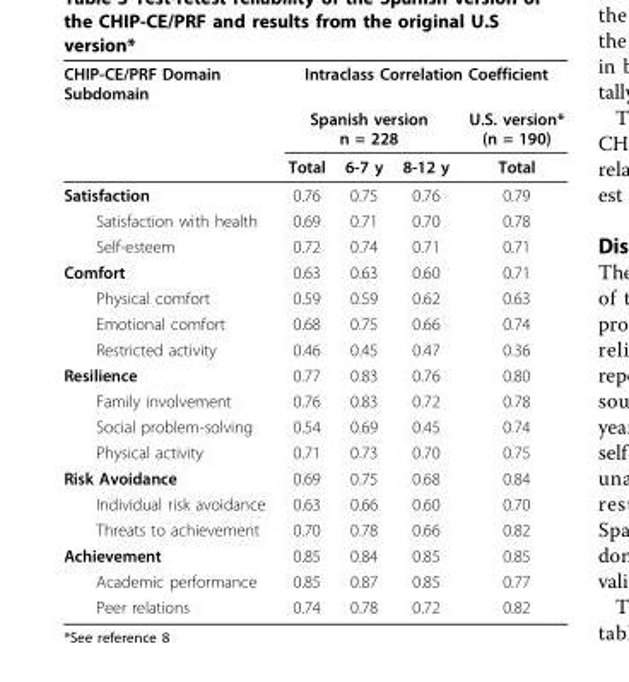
<table><thead><tr><td rowspan="3">CHIP-CE/PRF Domain Subdomain</td><td colspan="4">Intraclass Correlation Coefficient</td></tr><tr><td colspan="3">Spanish version n = 228</td><td rowspan="2">U.S. version* (n = 190) Total</td></tr><tr><td>Total</td><td>6-7 y</td><td>8-12 y</td></tr></thead><tbody><tr><td>Satisfaction</td><td>0.76</td><td>0.75</td><td>0.76</td><td>0.79</td></tr><tr><td>Satisfaction with health</td><td>0.69</td><td>0.71</td><td>0.70</td><td>0.78</td></tr><tr><td>Self-esteem</td><td>0.72</td><td>0.74</td><td>0.71</td><td>0.71</td></tr><tr><td>Comfort</td><td>0.63</td><td>0.63</td><td>0.60</td><td>0.71</td></tr><tr><td>Physical comfort</td><td>0.59</td><td>0.59</td><td>0.62</td><td>0.63</td></tr><tr><td>Emotional comfort</td><td>0.68</td><td>0.75</td><td>0.66</td><td>0.74</td></tr><tr><td>Restricted activity</td><td>0.46</td><td>0.45</td><td>0.47</td><td>0.36</td></tr><tr><td>Resilience</td><td>0.77</td><td>0.83</td><td>0.76</td><td>0.80</td></tr><tr><td>Family involvement</td><td>0.76</td><td>0.83</td><td>0.72</td><td>0.78</td></tr><tr><td>Social problem-solving</td><td>0.54</td><td>0.69</td><td>0.45</td><td>0.74</td></tr><tr><td>Physical activity</td><td>0.71</td><td>0.73</td><td>0.70</td><td>0.75</td></tr><tr><td>Risk Avoidance</td><td>0.69</td><td>0.75</td><td>0.68</td><td>0.84</td></tr><tr><td>Individual risk avoidance</td><td>0.63</td><td>0.66</td><td>0.60</td><td>0.70</td></tr><tr><td>Threats to achievement</td><td>0.70</td><td>0.78</td><td>0.66</td><td>0.82</td></tr><tr><td>Achievement</td><td>0.85</td><td>0.84</td><td>0.85</td><td>0.85</td></tr><tr><td>Academic performance</td><td>0.85</td><td>0.87</td><td>0.85</td><td>0.77</td></tr><tr><td>Peer relations</td><td>0.74</td><td>0.78</td><td>0.72</td><td>0.82</td></tr></tbody></table>